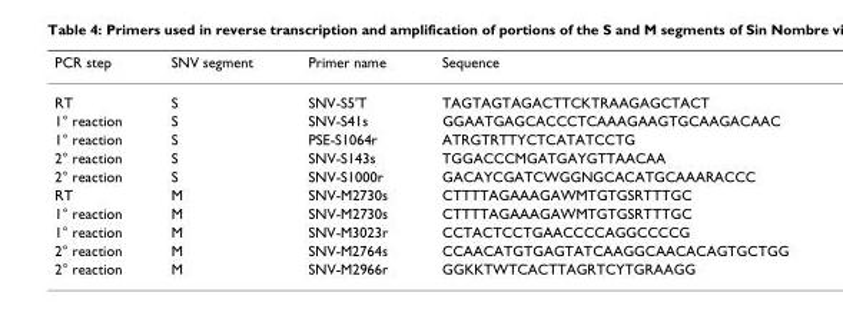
<table><thead><tr><td>PCR step</td><td>SNV segment</td><td>Primer name</td><td>Sequence</td></tr></thead><tbody><tr><td>RT</td><td>S</td><td>SNV-S5&#x27;T</td><td>TAGTAGTAGACTTCKTRAAGAGCTACT</td></tr><tr><td>1° reaction</td><td>S</td><td>SNV-S41s</td><td>GGAATGAGCACCCTCAAAGAAGTGCAAGACAAC</td></tr><tr><td>1° reaction</td><td>S</td><td>PSE-S1064r</td><td>ATRGTRTTYCTCATATCCTG</td></tr><tr><td>2° reaction</td><td>S</td><td>SNV-S143s</td><td>TGGACCCMGATGAYGTTAACAA</td></tr><tr><td>2° reaction</td><td>S</td><td>SNV-S1000r</td><td>GACAYCGATCWGGNGCACATGCAAARACCC</td></tr><tr><td>RT</td><td>M</td><td>SNV-M2730s</td><td>CTTTTAGAAAGAWMTGTGSRTTTGC</td></tr><tr><td>1° reaction</td><td>M</td><td>SNV-M2730s</td><td>CTTTTAGAAAGAWMTGTGSRTTTGC</td></tr><tr><td>1° reaction</td><td>M</td><td>SNV-M3023r</td><td>CCTACTCCTGAACCCCAGGCCCCG</td></tr><tr><td>2° reaction</td><td>M</td><td>SNV-M2764s</td><td>CCAACATGTGAGTATCAAGGCAACACAGTGCTGG</td></tr><tr><td>2° reaction</td><td>M</td><td>SNV-M2966r</td><td>GGKKTWTCACTTAGRTCYTGRAAGG</td></tr></tbody></table>